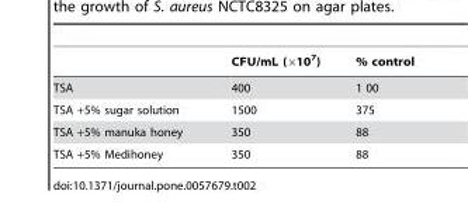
<table><thead><tr><td></td><td>CFU/mL (×10<sup>7</sup>)</td><td>% control</td></tr></thead><tbody><tr><td>TSA</td><td>400</td><td>1 00</td></tr><tr><td>TSA +5% sugar solution</td><td>1500</td><td>375</td></tr><tr><td>TSA +5% manuka honey</td><td>350</td><td>88</td></tr><tr><td>TSA +5% Medihoney</td><td>350</td><td>88</td></tr></tbody></table>